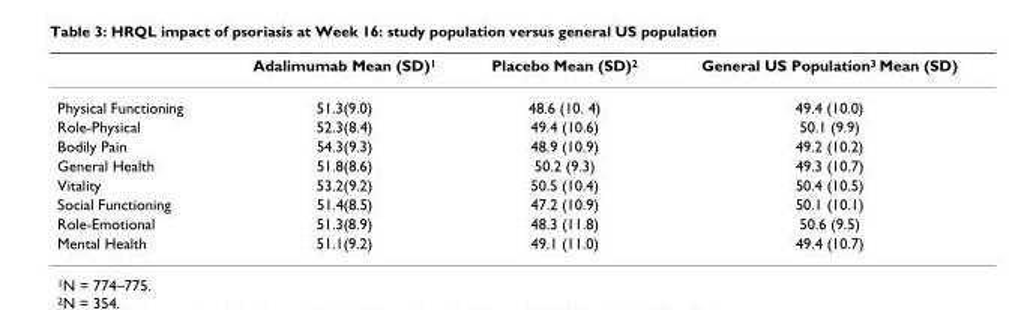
<table><thead><tr><td></td><td>Adalimumab Mean (SD)<sup>1</sup></td><td>Placebo Mean (SD)<sup>2</sup></td><td>General US Population<sup>3</sup> Mean (SD)</td></tr></thead><tbody><tr><td>Physical Functioning</td><td>51.3(9.0)</td><td>48.6 (10. 4)</td><td>49.4 (10.0)</td></tr><tr><td>Role-Physical</td><td>52.3(8.4)</td><td>49.4 (10.6)</td><td>50.1 (9.9)</td></tr><tr><td>Bodily Pain</td><td>54.3(9.3)</td><td>48.9 (10.9)</td><td>49.2 (10.2)</td></tr><tr><td>General Health</td><td>51.8(8.6)</td><td>50.2 (9.3)</td><td>49.3 (10.7)</td></tr><tr><td>Vitality</td><td>53.2(9.2)</td><td>50.5 (10.4)</td><td>50.4 (10.5)</td></tr><tr><td>Social Functioning</td><td>51.4(8.5)</td><td>47.2 (10.9)</td><td>50.1 (10.1)</td></tr><tr><td>Role-Emotional</td><td>51.3(8.9)</td><td>48.3 (11.8)</td><td>50.6 (9.5)</td></tr><tr><td>Mental Health</td><td>51.1(9.2)</td><td>49.1 (11.0)</td><td>49.4 (10.7)</td></tr></tbody></table>